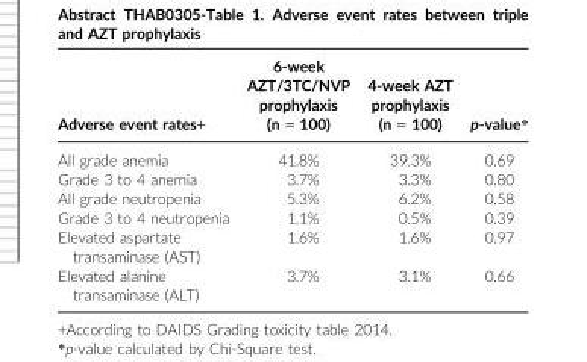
<table><thead><tr><td>Adverse event rates+</td><td>6-week AZT/3TC/NVP prophylaxis (n = 100)</td><td>4-week AZT prophylaxis (n = 100)</td><td>p-value*</td></tr></thead><tbody><tr><td>All grade anemia</td><td>41.8%</td><td>39.3%</td><td>0.69</td></tr><tr><td>Grade 3 to 4 anemia</td><td>3.7%</td><td>3.3%</td><td>0.80</td></tr><tr><td>All grade neutropenia</td><td>5.3%</td><td>6.2%</td><td>0.58</td></tr><tr><td>Grade 3 to 4 neutropenia</td><td>1.1%</td><td>0.5%</td><td>0.39</td></tr><tr><td>Elevated aspartate transaminase (AST)</td><td>1.6%</td><td>1.6%</td><td>0.97</td></tr><tr><td>Elevated alanine transaminase (ALT)</td><td>3.7%</td><td>3.1%</td><td>0.66</td></tr></tbody></table>